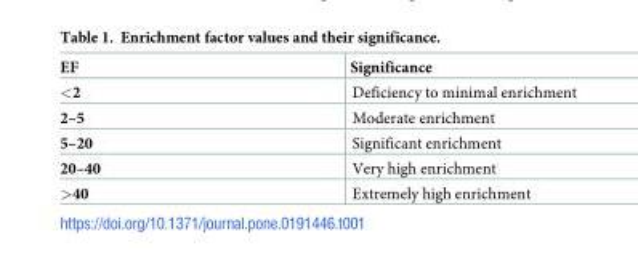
<table><thead><tr><td>EF</td><td>Significance</td></tr></thead><tbody><tr><td>&lt;2</td><td>Deficiency to minimal enrichment</td></tr><tr><td>2–5</td><td>Moderate enrichment</td></tr><tr><td>5–20</td><td>Significant enrichment</td></tr><tr><td>20–40</td><td>Very high enrichment</td></tr><tr><td>&gt;40</td><td>Extremely high enrichment</td></tr></tbody></table>